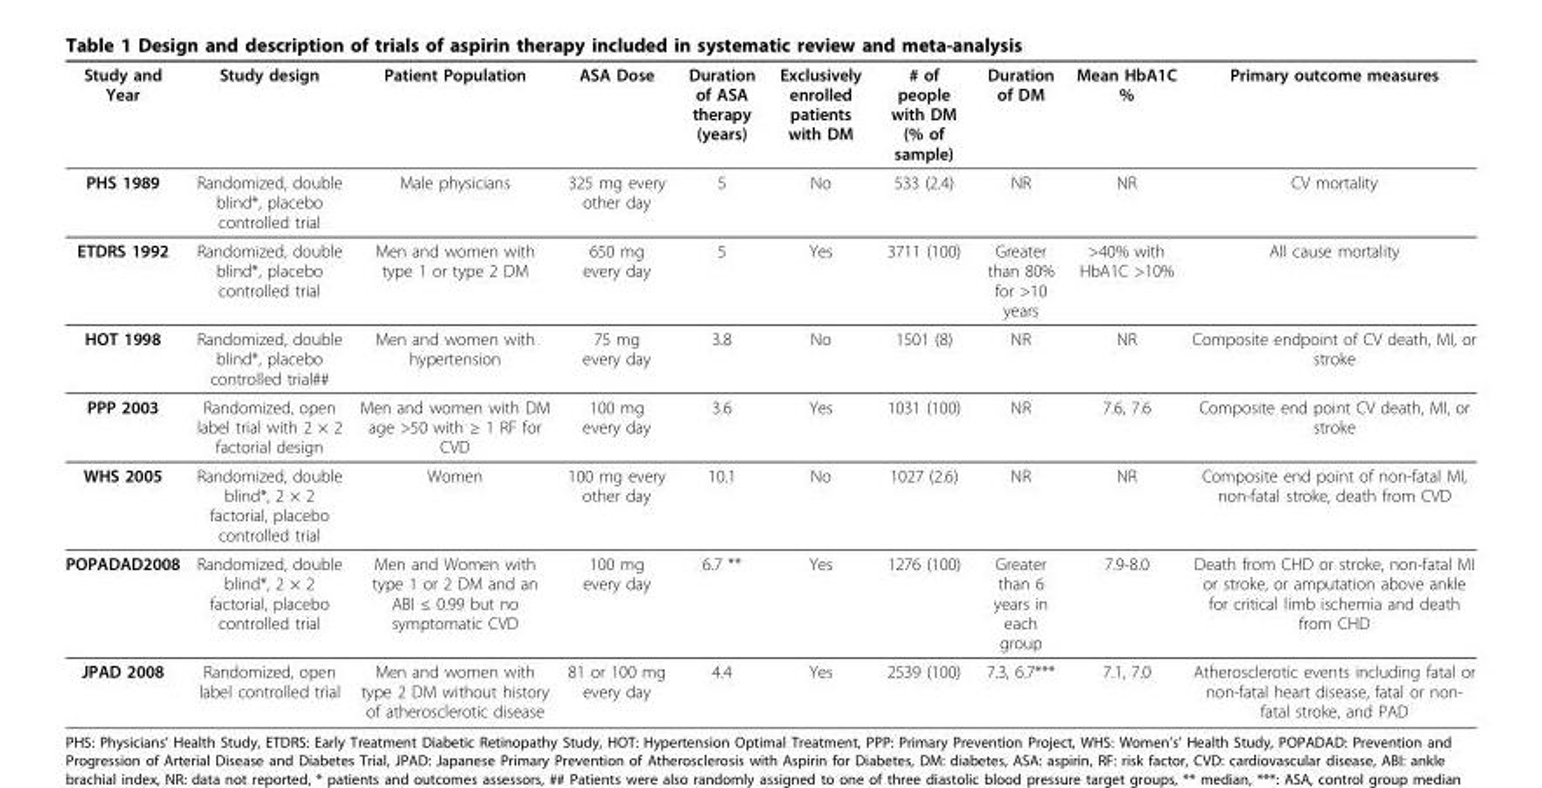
<table><thead><tr><td>Study and Year</td><td>Study design</td><td>Patient Population</td><td>ASA Dose</td><td>Duration of ASA therapy (years)</td><td>Exclusively enrolled patients with DM</td><td># of people with DM (% of sample)</td><td>Duration of DM</td><td>Mean HbA1C %</td><td>Primary outcome measures</td></tr></thead><tbody><tr><td>PHS 1989</td><td>Randomized, double blind*, placebo controlled trial</td><td>Male physicians</td><td>325 mg every other day</td><td>5</td><td>No</td><td>533 (2.4)</td><td>NR</td><td>NR</td><td>CV mortality</td></tr><tr><td>ETDRS 1992</td><td>Randomized, double blind*, placebo controlled trial</td><td>Men and women with type 1 or type 2 DM</td><td>650 mg every day</td><td>5</td><td>Yes</td><td>3711 (100)</td><td>Greater than 80% for &gt;10 years</td><td>&gt;40% with HbA1C &gt;10%</td><td>All cause mortality</td></tr><tr><td>HOT 1998</td><td>Randomized, double blind*, placebo controlled trial##</td><td>Men and women with hypertension</td><td>75 mg every day</td><td>3.8</td><td>No</td><td>1501 (8)</td><td>NR</td><td>NR</td><td>Composite endpoint of CV death, MI, or stroke</td></tr><tr><td>PPP 2003</td><td>Randomized, open label trial with 2 × 2 factorial design</td><td>Men and women with DM age &gt;50 with ≥ 1 RF for CVD</td><td>100 mg every day</td><td>3.6</td><td>Yes</td><td>1031 (100)</td><td>NR</td><td>7.6, 7.6</td><td>Composite end point CV death, MI, or stroke</td></tr><tr><td>WHS 2005</td><td>Randomized, double blind*, 2 × 2 factorial, placebo controlled trial</td><td>Women</td><td>100 mg every other day</td><td>10.1</td><td>No</td><td>1027 (2.6)</td><td>NR</td><td>NR</td><td>Composite end point of non-fatal MI, non-fatal stroke, death from CVD</td></tr><tr><td>POPADAD2008</td><td>Randomized, double blind*, 2 × 2 factorial, placebo controlled trial</td><td>Men and Women with type 1 or 2 DM and an ABI ≤ 0.99 but no symptomatic CVD</td><td>100 mg every day</td><td>6.7 **</td><td>Yes</td><td>1276 (100)</td><td>Greater than 6 years in each group</td><td>7.9-8.0</td><td>Death from CHD or stroke, non-fatal MI or stroke, or amputation above ankle for critical limb ischemia and death from CHD</td></tr><tr><td>JPAD 2008</td><td>Randomized, open label controlled trial</td><td>Men and women with type 2 DM without history of atherosclerotic disease</td><td>81 or 100 mg every day</td><td>4.4</td><td>Yes</td><td>2539 (100)</td><td>7.3, 6.7***</td><td>7.1, 7.0</td><td>Atherosclerotic events including fatal or non-fatal heart disease, fatal or non- fatal stroke, and PAD</td></tr></tbody></table>